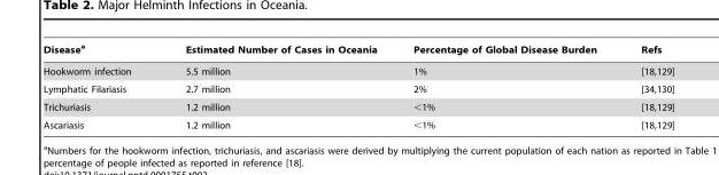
<table><thead><tr><td>Disease<sup>a</sup></td><td>Estimated Number of Cases in Oceania</td><td>Percentage of Global Disease Burden</td><td>Refs</td></tr></thead><tbody><tr><td>Hookworm infection</td><td>5.5 million</td><td>1%</td><td>[18,129]</td></tr><tr><td>Lymphatic Filariasis</td><td>2.7 million</td><td>2%</td><td>[34,130]</td></tr><tr><td>Trichuriasis</td><td>1.2 million</td><td>&lt;1%</td><td>[18,129]</td></tr><tr><td>Ascariasis</td><td>1.2 million</td><td>&lt;1%</td><td>[18,129]</td></tr></tbody></table>